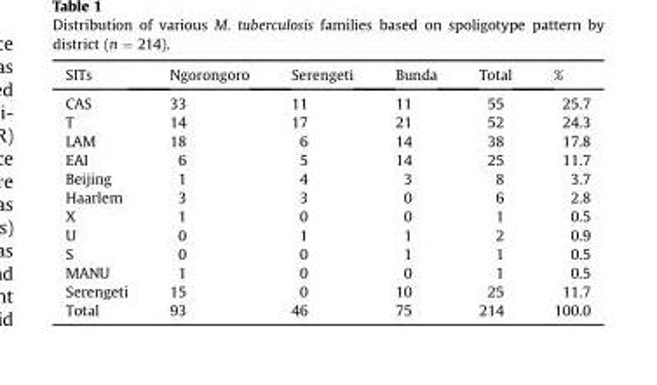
<table><thead><tr><td>SITs</td><td>Ngorongoro</td><td>Serengeti</td><td>Bunda</td><td>Total</td><td>%</td></tr></thead><tbody><tr><td>CAS</td><td>33</td><td>11</td><td>11</td><td>55</td><td>25.7</td></tr><tr><td>T</td><td>14</td><td>17</td><td>21</td><td>52</td><td>24.3</td></tr><tr><td>LAM</td><td>18</td><td>6</td><td>14</td><td>38</td><td>17.8</td></tr><tr><td>EAI</td><td>6</td><td>5</td><td>14</td><td>25</td><td>11.7</td></tr><tr><td>Beijing</td><td>1</td><td>4</td><td>3</td><td>8</td><td>3.7</td></tr><tr><td>Haarlem</td><td>3</td><td>3</td><td>0</td><td>6</td><td>2.8</td></tr><tr><td>X</td><td>1</td><td>0</td><td>0</td><td>1</td><td>0.5</td></tr><tr><td>U</td><td>0</td><td>1</td><td>1</td><td>2</td><td>0.9</td></tr><tr><td>S</td><td>0</td><td>0</td><td>1</td><td>1</td><td>0.5</td></tr><tr><td>MANU</td><td>1</td><td>0</td><td>0</td><td>1</td><td>0.5</td></tr><tr><td>Serengeti</td><td>15</td><td>0</td><td>10</td><td>25</td><td>11.7</td></tr><tr><td>Total</td><td>93</td><td>46</td><td>75</td><td>214</td><td>100.0</td></tr></tbody></table>